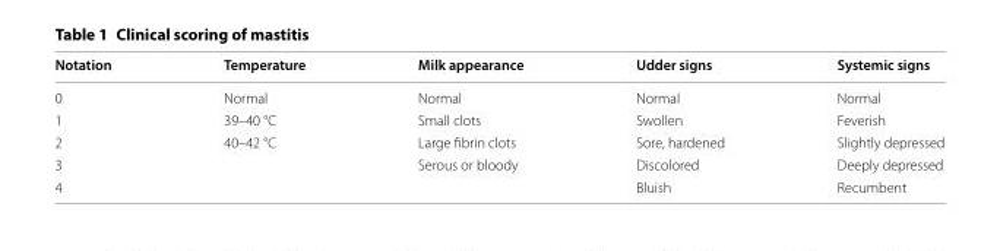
<table><thead><tr><td>Notation</td><td>Temperature</td><td>Milk appearance</td><td>Udder signs</td><td>Systemic signs</td></tr></thead><tbody><tr><td>0</td><td>Normal</td><td>Normal</td><td>Normal</td><td>Normal</td></tr><tr><td>1</td><td>39–40 °C</td><td>Small clots</td><td>Swollen</td><td>Feverish</td></tr><tr><td>2</td><td>40–42 °C</td><td>Large fibrin clots</td><td>Sore, hardened</td><td>Slightly depressed</td></tr><tr><td>3</td><td></td><td>Serous or bloody</td><td>Discolored</td><td>Deeply depressed</td></tr><tr><td>4</td><td></td><td></td><td>Bluish</td><td>Recumbent</td></tr></tbody></table>